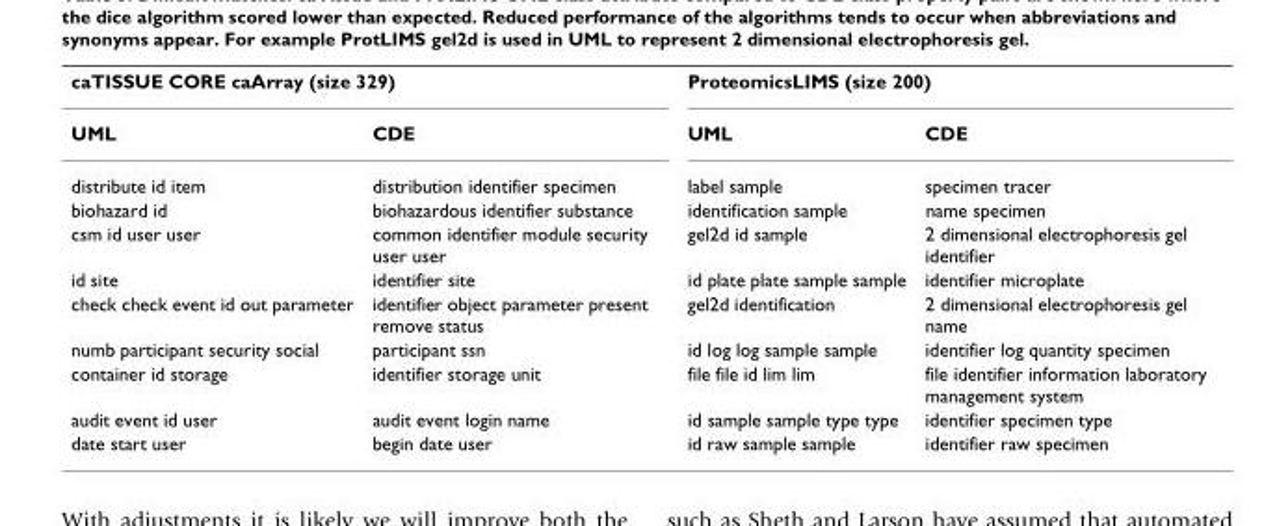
<table><tbody><tr><td colspan="2">caTISSUE CORE caArray (size 329)</td><td colspan="2">ProteomicsLIMS (size 200)</td></tr><tr><td>UML</td><td>CDE</td><td>UML</td><td>CDE</td></tr><tr><td>distribute id item</td><td>distribution identifier specimen</td><td>label sample</td><td>specimen tracer</td></tr><tr><td>biohazard id</td><td>biohazardous identifier substance</td><td>identification sample</td><td>name specimen</td></tr><tr><td>csm id user user</td><td>common identifier module security user user</td><td>gel2d id sample</td><td>2 dimensional electrophoresis gel identifier</td></tr><tr><td>id site</td><td>identifier site</td><td>id plate plate sample sample</td><td>identifier microplate</td></tr><tr><td>check check event id out parameter</td><td>identifier object parameter present remove status</td><td>gel2d identification</td><td>2 dimensional electrophoresis gel name</td></tr><tr><td>numb participant security social</td><td>participant ssn</td><td>id log log sample sample</td><td>identifier log quantity specimen</td></tr><tr><td>container id storage</td><td>identifier storage unit</td><td>file file id lim lim</td><td>file identifier information laboratory management system</td></tr><tr><td>audit event id user</td><td>audit event login name</td><td>id sample sample type type</td><td>identifier specimen type</td></tr><tr><td>date start user</td><td>begin date user</td><td>id raw sample sample</td><td>identifier raw specimen</td></tr></tbody></table>